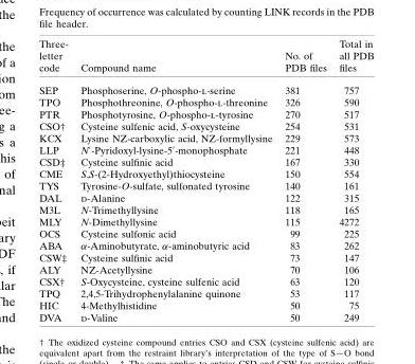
<table><thead><tr><td>Three- letter code</td><td>Compound name</td><td>No. of PDB files</td><td>Total in all PDB files</td></tr></thead><tbody><tr><td>SEP</td><td>Phosphoserine, O-phospho-l-serine</td><td>381</td><td>757</td></tr><tr><td>TPO</td><td>Phosphothreonine, O-phospho-l-threonine</td><td>326</td><td>590</td></tr><tr><td>PTR</td><td>Phosphotyrosine, O-phospho-l-tyrosine</td><td>270</td><td>517</td></tr><tr><td>CSO†</td><td>Cysteine sulfenic acid, S-oxycysteine</td><td>254</td><td>531</td></tr><tr><td>KCX</td><td>Lysine NZ-carboxylic acid, NZ-formyllysine</td><td>229</td><td>573</td></tr><tr><td>LLP</td><td>N′-Pyridoxyl-lysine-5′-monophosphate</td><td>221</td><td>448</td></tr><tr><td>CSD‡</td><td>Cysteine sulfinic acid</td><td>167</td><td>330</td></tr><tr><td>CME</td><td>S,S-(2-Hydroxyethyl)thiocysteine</td><td>150</td><td>554</td></tr><tr><td>TYS</td><td>Tyrosine-O-sulfate, sulfonated tyrosine</td><td>140</td><td>161</td></tr><tr><td>DAL</td><td>d-Alanine</td><td>122</td><td>315</td></tr><tr><td>M3L</td><td>N-Trimethyllysine</td><td>118</td><td>165</td></tr><tr><td>MLY</td><td>N-Dimethyllysine</td><td>115</td><td>4272</td></tr><tr><td>OCS</td><td>Cysteine sulfonic acid</td><td>99</td><td>225</td></tr><tr><td>ABA</td><td>α-Aminobutyrate, α-aminobutyric acid</td><td>83</td><td>262</td></tr><tr><td>CSW‡</td><td>Cysteine sulfinic acid</td><td>73</td><td>147</td></tr><tr><td>ALY</td><td>NZ-Acetyllysine</td><td>70</td><td>106</td></tr><tr><td>CSX†</td><td>S-Oxycysteine, cysteine sulfenic acid</td><td>63</td><td>120</td></tr><tr><td>TPQ</td><td>2,4,5-Trihydrophenylalanine quinone</td><td>53</td><td>117</td></tr><tr><td>HIC</td><td>4-Methylhistidine</td><td>50</td><td>75</td></tr><tr><td>DVA</td><td>d-Valine</td><td>50</td><td>249</td></tr></tbody></table>